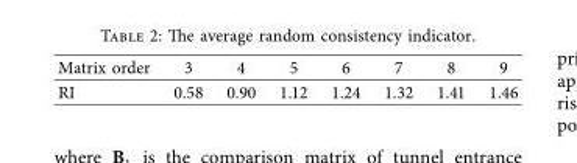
<table><thead><tr><td>Matrix order</td><td>3</td><td>4</td><td>5</td><td>6</td><td>7</td><td>8</td><td>9</td></tr></thead><tbody><tr><td>RI</td><td>0.58</td><td>0.90</td><td>1.12</td><td>1.24</td><td>1.32</td><td>1.41</td><td>1.46</td></tr></tbody></table>